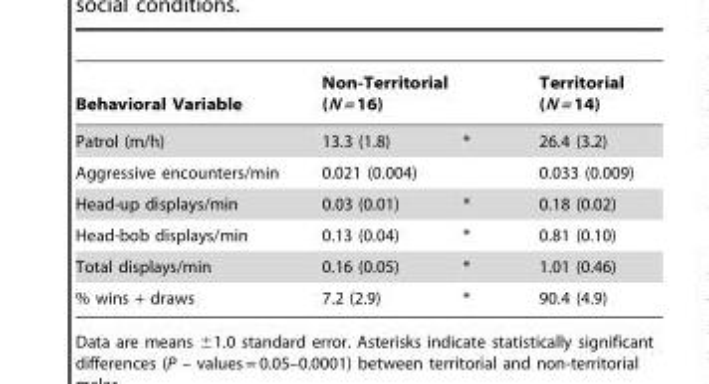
<table><thead><tr><td>Behavioral Variable</td><td>Non-Territorial (N = 16)</td><td></td><td>Territorial (N = 14)</td></tr></thead><tbody><tr><td>Patrol (m/h)</td><td>13.3 (1.8)</td><td>*</td><td>26.4 (3.2)</td></tr><tr><td>Aggressive encounters/min</td><td>0.021 (0.004)</td><td></td><td>0.033 (0.009)</td></tr><tr><td>Head-up displays/min</td><td>0.03 (0.01)</td><td>*</td><td>0.18 (0.02)</td></tr><tr><td>Head-bob displays/min</td><td>0.13 (0.04)</td><td>*</td><td>0.81 (0.10)</td></tr><tr><td>Total displays/min</td><td>0.16 (0.05)</td><td>*</td><td>1.01 (0.46)</td></tr><tr><td>% wins + draws</td><td>7.2 (2.9)</td><td>*</td><td>90.4 (4.9)</td></tr></tbody></table>